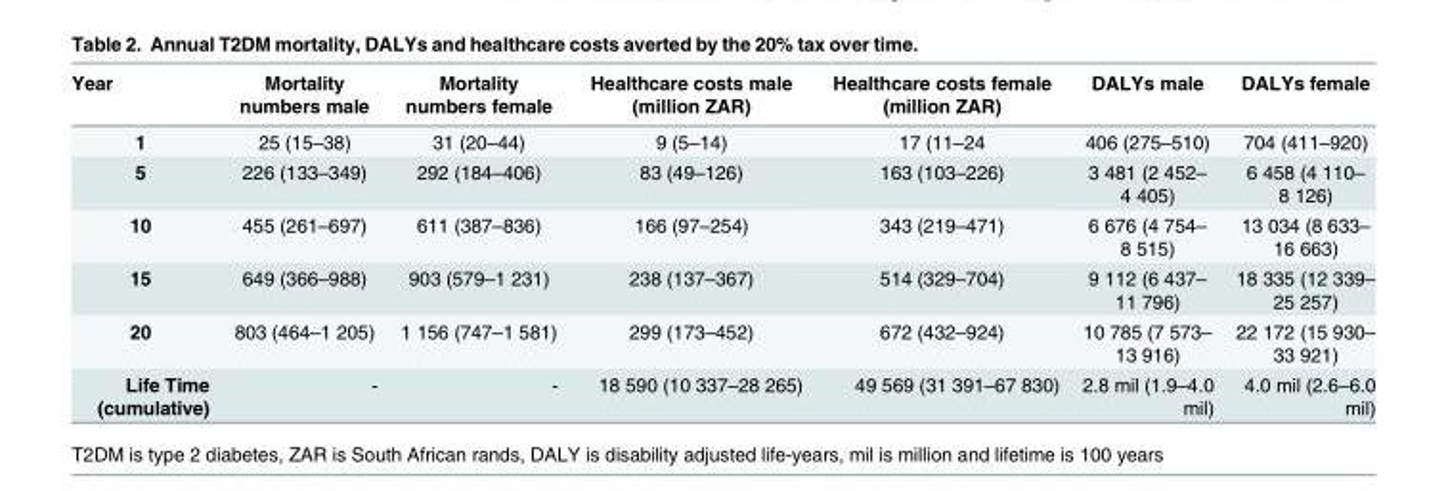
<table><thead><tr><td>Year</td><td>Mortality numbers male</td><td>Mortality numbers female</td><td>Healthcare costs male (million ZAR)</td><td>Healthcare costs female (million ZAR)</td><td>DALYs male</td><td>DALYs female</td></tr></thead><tbody><tr><td>1</td><td>25 (15–38)</td><td>31 (20–44)</td><td>9 (5–14)</td><td>17 (11–24</td><td>406 (275–510)</td><td>704 (411–920)</td></tr><tr><td>5</td><td>226 (133–349)</td><td>292 (184–406)</td><td>83 (49–126)</td><td>163 (103–226)</td><td>3 481 (2 452– 4 405)</td><td>6 458 (4 110– 8 126)</td></tr><tr><td>10</td><td>455 (261–697)</td><td>611 (387–836)</td><td>166 (97–254)</td><td>343 (219–471)</td><td>6 676 (4 754– 8 515)</td><td>13 034 (8 633– 16 663)</td></tr><tr><td>15</td><td>649 (366–988)</td><td>903 (579–1 231)</td><td>238 (137–367)</td><td>514 (329–704)</td><td>9 112 (6 437– 11 796)</td><td>18 335 (12 339– 25 257)</td></tr><tr><td>20</td><td>803 (464–1 205)</td><td>1 156 (747–1 581)</td><td>299 (173–452)</td><td>672 (432–924)</td><td>10 785 (7 573– 13 916)</td><td>22 172 (15 930– 33 921)</td></tr><tr><td>Life Time (cumulative)</td><td>-</td><td>-</td><td>18 590 (10 337–28 265)</td><td>49 569 (31 391–67 830)</td><td>2.8 mil (1.9–4.0 mil)</td><td>4.0 mil (2.6–6.0 mil)</td></tr></tbody></table>